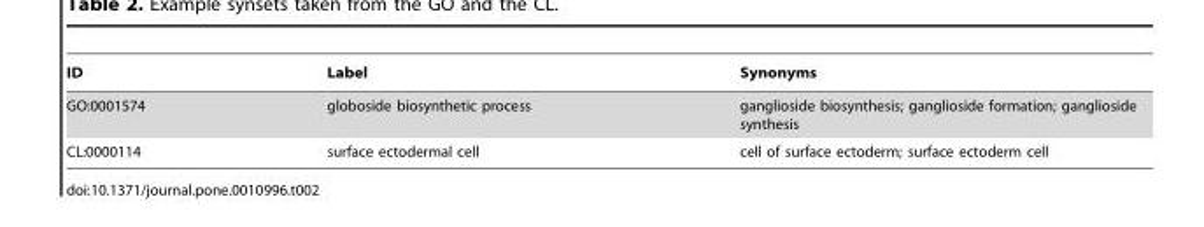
<table><thead><tr><td>ID</td><td>Label</td><td>Synonyms</td></tr></thead><tbody><tr><td>GO:0001574</td><td>globoside biosynthetic process</td><td>ganglioside biosynthesis; ganglioside formation; ganglioside synthesis</td></tr><tr><td>CL:0000114</td><td>surface ectodermal cell</td><td>cell of surface ectoderm; surface ectoderm cell</td></tr></tbody></table>